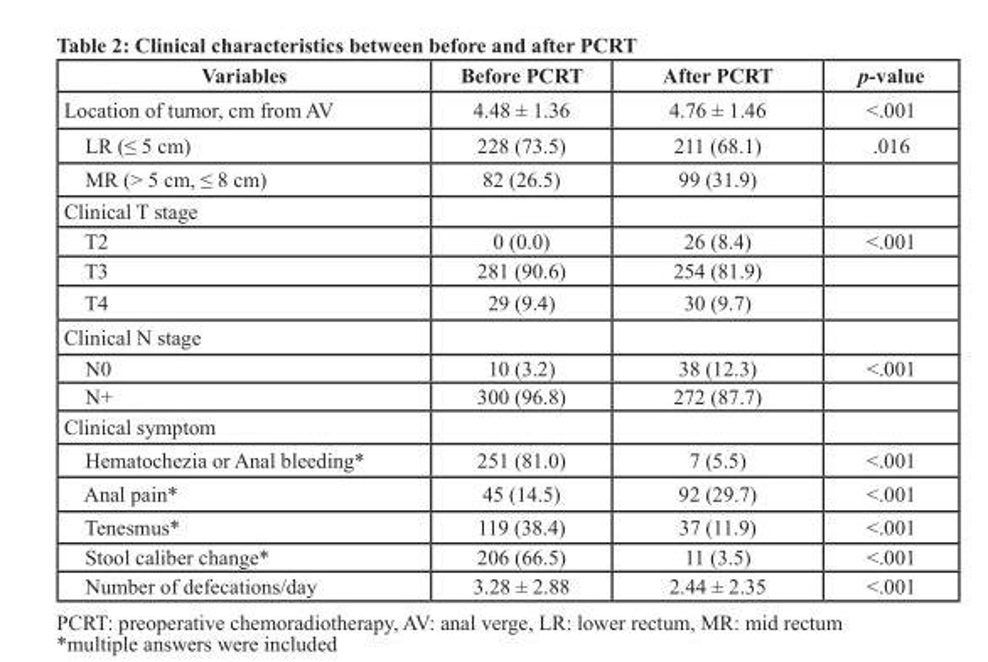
<table><thead><tr><td>Variables</td><td>Before PCRT</td><td>After PCRT</td><td>p-value</td></tr></thead><tbody><tr><td>Location of tumor, cm from AV</td><td>4.48 ± 1.36</td><td>4.76 ± 1.46</td><td>&lt;.001</td></tr><tr><td>LR (≤ 5 cm)</td><td>228 (73.5)</td><td>211 (68.1)</td><td>.016</td></tr><tr><td>MR (&gt; 5 cm, ≤ 8 cm)</td><td>82 (26.5)</td><td>99 (31.9)</td><td></td></tr><tr><td colspan="4">Clinical T stage</td></tr><tr><td>T2</td><td>0 (0.0)</td><td>26 (8.4)</td><td>&lt;.001</td></tr><tr><td>T3</td><td>281 (90.6)</td><td>254 (81.9)</td><td></td></tr><tr><td>T4</td><td>29 (9.4)</td><td>30 (9.7)</td><td></td></tr><tr><td colspan="4">Clinical N stage</td></tr><tr><td>N0</td><td>10 (3.2)</td><td>38 (12.3)</td><td>&lt;.001</td></tr><tr><td>N+</td><td>300 (96.8)</td><td>272 (87.7)</td><td></td></tr><tr><td colspan="4">Clinical symptom</td></tr><tr><td>Hematochezia or Anal bleeding*</td><td>251 (81.0)</td><td>7 (5.5)</td><td>&lt;.001</td></tr><tr><td>Anal pain*</td><td>45 (14.5)</td><td>92 (29.7)</td><td>&lt;.001</td></tr><tr><td>Tenesmus*</td><td>119 (38.4)</td><td>37 (11.9)</td><td>&lt;.001</td></tr><tr><td>Stool caliber change*</td><td>206 (66.5)</td><td>11 (3.5)</td><td>&lt;.001</td></tr><tr><td>Number of defecations/day</td><td>3.28 ± 2.88</td><td>2.44 ± 2.35</td><td>&lt;.001</td></tr></tbody></table>